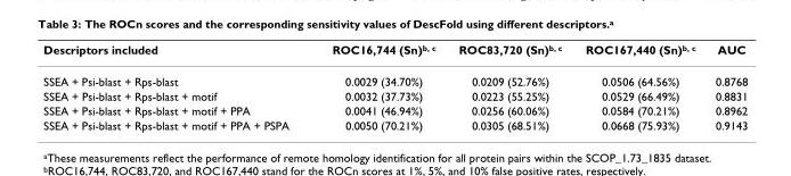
<table><thead><tr><td>Descriptors included</td><td>ROC16,744 (Sn)<sup>b, c</sup></td><td>ROC83,720 (Sn)<sup>b, c</sup></td><td>ROC167,440 (Sn)<sup>b, c</sup></td><td>AUC</td></tr></thead><tbody><tr><td>SSEA + Psi-blast + Rps-blast</td><td>0.0029 (34.70%)</td><td>0.0209 (52.76%)</td><td>0.0506 (64.56%)</td><td>0.8768</td></tr><tr><td>SSEA + Psi-blast + Rps-blast + motif</td><td>0.0032 (37.73%)</td><td>0.0223 (55.25%)</td><td>0.0529 (66.49%)</td><td>0.8831</td></tr><tr><td>SSEA + Psi-blast + Rps-blast + motif + PPA</td><td>0.0041 (46.94%)</td><td>0.0256 (60.06%)</td><td>0.0584 (70.21%)</td><td>0.8962</td></tr><tr><td>SSEA + Psi-blast + Rps-blast + motif + PPA + PSPA</td><td>0.0050 (70.21%)</td><td>0.0305 (68.51%)</td><td>0.0668 (75.93%)</td><td>0.9143</td></tr></tbody></table>